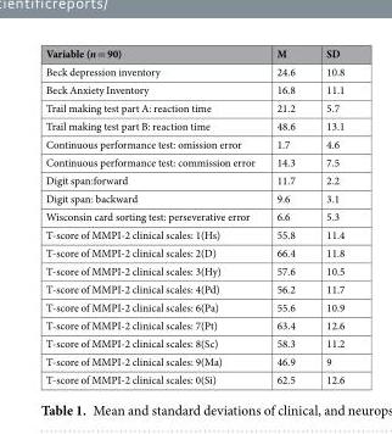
<table><thead><tr><td>Variable (n = 90)</td><td>M</td><td>SD</td></tr></thead><tbody><tr><td>Beck depression inventory</td><td>24.6</td><td>10.8</td></tr><tr><td>Beck Anxiety Inventory</td><td>16.8</td><td>11.1</td></tr><tr><td>Trail making test part A: reaction time</td><td>21.2</td><td>5.7</td></tr><tr><td>Trail making test part B: reaction time</td><td>48.6</td><td>13.1</td></tr><tr><td>Continuous performance test: omission error</td><td>1.7</td><td>4.6</td></tr><tr><td>Continuous performance test: commission error</td><td>14.3</td><td>7.5</td></tr><tr><td>Digit span:forward</td><td>11.7</td><td>2.2</td></tr><tr><td>Digit span: backward</td><td>9.6</td><td>3.1</td></tr><tr><td>Wisconsin card sorting test: perseverative error</td><td>6.6</td><td>5.3</td></tr><tr><td>T-score of MMPI-2 clinical scales: 1(Hs)</td><td>55.8</td><td>11.4</td></tr><tr><td>T-score of MMPI-2 clinical scales: 2(D)</td><td>66.4</td><td>11.8</td></tr><tr><td>T-score of MMPI-2 clinical scales: 3(Hy)</td><td>57.6</td><td>10.5</td></tr><tr><td>T-score of MMPI-2 clinical scales: 4(Pd)</td><td>56.2</td><td>11.7</td></tr><tr><td>T-score of MMPI-2 clinical scales: 6(Pa)</td><td>55.6</td><td>10.9</td></tr><tr><td>T-score of MMPI-2 clinical scales: 7(Pt)</td><td>63.4</td><td>12.6</td></tr><tr><td>T-score of MMPI-2 clinical scales: 8(Sc)</td><td>58.3</td><td>11.2</td></tr><tr><td>T-score of MMPI-2 clinical scales: 9(Ma)</td><td>46.9</td><td>9</td></tr><tr><td>T-score of MMPI-2 clinical scales: 0(Si)</td><td>62.5</td><td>12.6</td></tr></tbody></table>